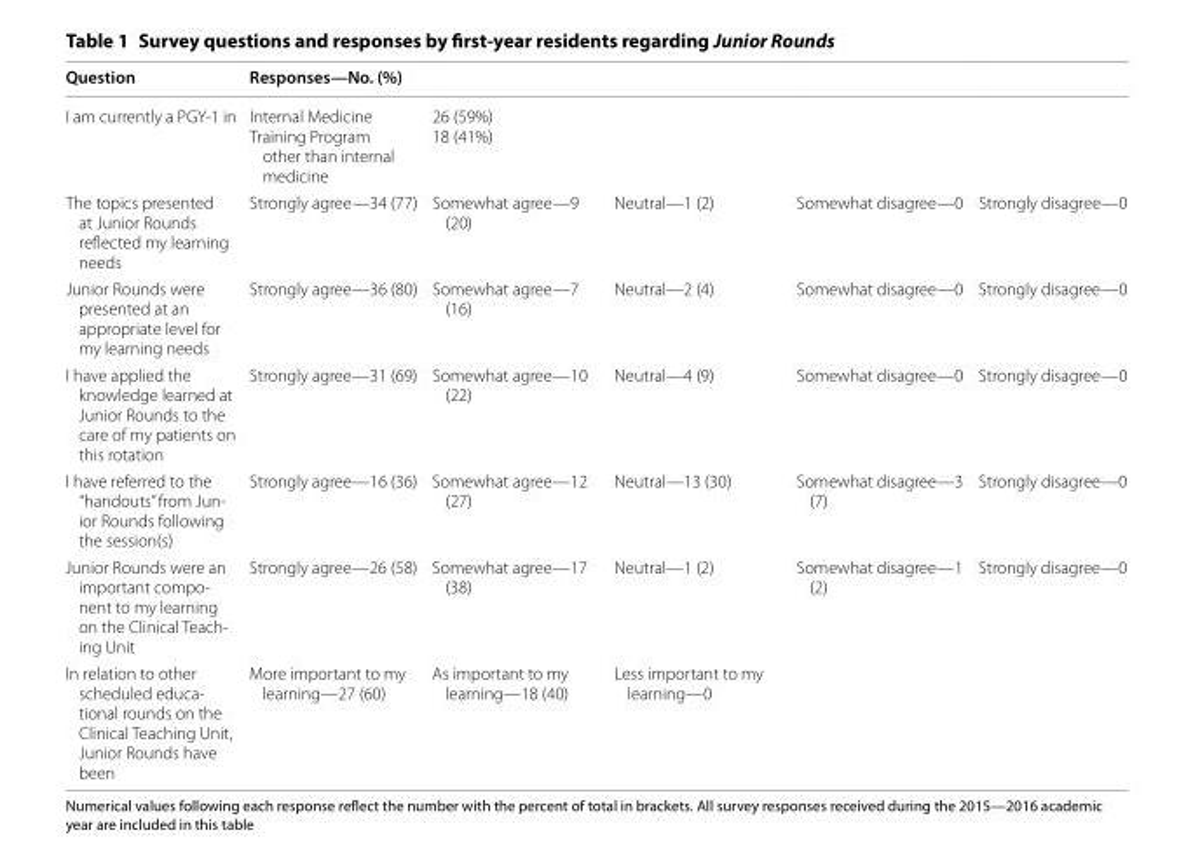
<table><thead><tr><td rowspan="2">Question I am currently a PGY‑1 in</td><td colspan="5">Responses—No. (%)</td></tr><tr><td>Internal Medicine Training Program other than internal medicine</td><td>26 (59%) 18 (41%)</td><td></td><td></td><td></td></tr></thead><tbody><tr><td>The topics presented at Junior Rounds reflected my learning needs</td><td>Strongly agree—34 (77)</td><td>Somewhat agree—9 (20)</td><td>Neutral—1 (2)</td><td>Somewhat disagree—0</td><td>Strongly disagree—0</td></tr><tr><td>Junior Rounds were presented at an appropriate level for my learning needs</td><td>Strongly agree—36 (80)</td><td>Somewhat agree—7 (16)</td><td>Neutral—2 (4)</td><td>Somewhat disagree—0</td><td>Strongly disagree—0</td></tr><tr><td>I have applied the knowledge learned at Junior Rounds to the care of my patients on this rotation</td><td>Strongly agree—31 (69)</td><td>Somewhat agree—10 (22)</td><td>Neutral—4 (9)</td><td>Somewhat disagree—0</td><td>Strongly disagree—0</td></tr><tr><td>I have referred to the “handouts” from Jun‑ ior Rounds following the session(s)</td><td>Strongly agree—16 (36)</td><td>Somewhat agree—12 (27)</td><td>Neutral—13 (30)</td><td>Somewhat disagree—3 (7)</td><td>Strongly disagree—0</td></tr><tr><td>Junior Rounds were an important compo‑ nent to my learning on the Clinical Teach‑ ing Unit</td><td>Strongly agree—26 (58)</td><td>Somewhat agree—17 (38)</td><td>Neutral—1 (2)</td><td>Somewhat disagree—1 (2)</td><td>Strongly disagree—0</td></tr><tr><td>In relation to other scheduled educa‑ tional rounds on the Clinical Teaching Unit, Junior Rounds have been</td><td>More important to my learning—27 (60)</td><td>As important to my learning—18 (40)</td><td>Less important to my learning—0</td><td></td><td></td></tr></tbody></table>